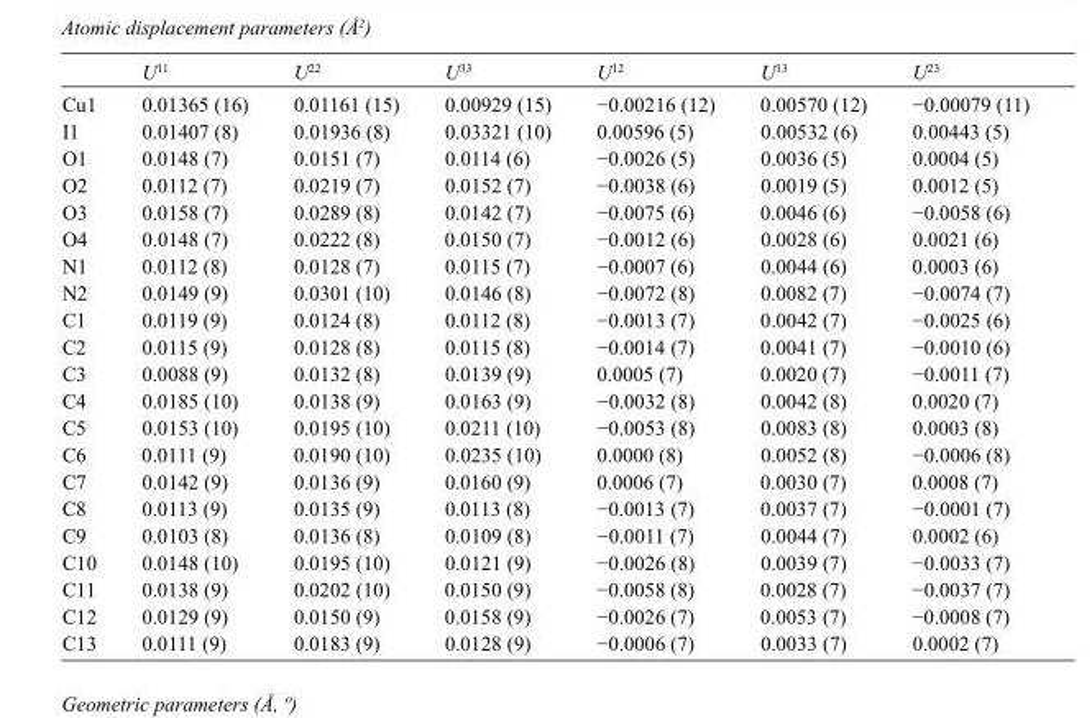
<table><thead><tr><td></td><td>U<sup>11</sup></td><td>U<sup>22</sup></td><td>U<sup>33</sup></td><td>U<sup>12</sup></td><td>U<sup>13</sup></td><td>U<sup>23</sup></td></tr></thead><tbody><tr><td>Cu1</td><td>0.01365 (16)</td><td>0.01161 (15)</td><td>0.00929 (15)</td><td>−0.00216 (12)</td><td>0.00570 (12)</td><td>−0.00079 (11)</td></tr><tr><td>I1</td><td>0.01407 (8)</td><td>0.01936 (8)</td><td>0.03321 (10)</td><td>0.00596 (5)</td><td>0.00532 (6)</td><td>0.00443 (5)</td></tr><tr><td>O1</td><td>0.0148 (7)</td><td>0.0151 (7)</td><td>0.0114 (6)</td><td>−0.0026 (5)</td><td>0.0036 (5)</td><td>0.0004 (5)</td></tr><tr><td>O2</td><td>0.0112 (7)</td><td>0.0219 (7)</td><td>0.0152 (7)</td><td>−0.0038 (6)</td><td>0.0019 (5)</td><td>0.0012 (5)</td></tr><tr><td>O3</td><td>0.0158 (7)</td><td>0.0289 (8)</td><td>0.0142 (7)</td><td>−0.0075 (6)</td><td>0.0046 (6)</td><td>−0.0058 (6)</td></tr><tr><td>O4</td><td>0.0148 (7)</td><td>0.0222 (8)</td><td>0.0150 (7)</td><td>−0.0012 (6)</td><td>0.0028 (6)</td><td>0.0021 (6)</td></tr><tr><td>N1</td><td>0.0112 (8)</td><td>0.0128 (7)</td><td>0.0115 (7)</td><td>−0.0007 (6)</td><td>0.0044 (6)</td><td>0.0003 (6)</td></tr><tr><td>N2</td><td>0.0149 (9)</td><td>0.0301 (10)</td><td>0.0146 (8)</td><td>−0.0072 (8)</td><td>0.0082 (7)</td><td>−0.0074 (7)</td></tr><tr><td>C1</td><td>0.0119 (9)</td><td>0.0124 (8)</td><td>0.0112 (8)</td><td>−0.0013 (7)</td><td>0.0042 (7)</td><td>−0.0025 (6)</td></tr><tr><td>C2</td><td>0.0115 (9)</td><td>0.0128 (8)</td><td>0.0115 (8)</td><td>−0.0014 (7)</td><td>0.0041 (7)</td><td>−0.0010 (6)</td></tr><tr><td>C3</td><td>0.0088 (9)</td><td>0.0132 (8)</td><td>0.0139 (9)</td><td>0.0005 (7)</td><td>0.0020 (7)</td><td>−0.0011 (7)</td></tr><tr><td>C4</td><td>0.0185 (10)</td><td>0.0138 (9)</td><td>0.0163 (9)</td><td>−0.0032 (8)</td><td>0.0042 (8)</td><td>0.0020 (7)</td></tr><tr><td>C5</td><td>0.0153 (10)</td><td>0.0195 (10)</td><td>0.0211 (10)</td><td>−0.0053 (8)</td><td>0.0083 (8)</td><td>0.0003 (8)</td></tr><tr><td>C6</td><td>0.0111 (9)</td><td>0.0190 (10)</td><td>0.0235 (10)</td><td>0.0000 (8)</td><td>0.0052 (8)</td><td>−0.0006 (8)</td></tr><tr><td>C7</td><td>0.0142 (9)</td><td>0.0136 (9)</td><td>0.0160 (9)</td><td>0.0006 (7)</td><td>0.0030 (7)</td><td>0.0008 (7)</td></tr><tr><td>C8</td><td>0.0113 (9)</td><td>0.0135 (9)</td><td>0.0113 (8)</td><td>−0.0013 (7)</td><td>0.0037 (7)</td><td>−0.0001 (7)</td></tr><tr><td>C9</td><td>0.0103 (8)</td><td>0.0136 (8)</td><td>0.0109 (8)</td><td>−0.0011 (7)</td><td>0.0044 (7)</td><td>0.0002 (6)</td></tr><tr><td>C10</td><td>0.0148 (10)</td><td>0.0195 (10)</td><td>0.0121 (9)</td><td>−0.0026 (8)</td><td>0.0039 (7)</td><td>−0.0033 (7)</td></tr><tr><td>C11</td><td>0.0138 (9)</td><td>0.0202 (10)</td><td>0.0150 (9)</td><td>−0.0058 (8)</td><td>0.0028 (7)</td><td>−0.0037 (7)</td></tr><tr><td>C12</td><td>0.0129 (9)</td><td>0.0150 (9)</td><td>0.0158 (9)</td><td>−0.0026 (7)</td><td>0.0053 (7)</td><td>−0.0008 (7)</td></tr><tr><td>C13</td><td>0.0111 (9)</td><td>0.0183 (9)</td><td>0.0128 (9)</td><td>−0.0006 (7)</td><td>0.0033 (7)</td><td>0.0002 (7)</td></tr></tbody></table>